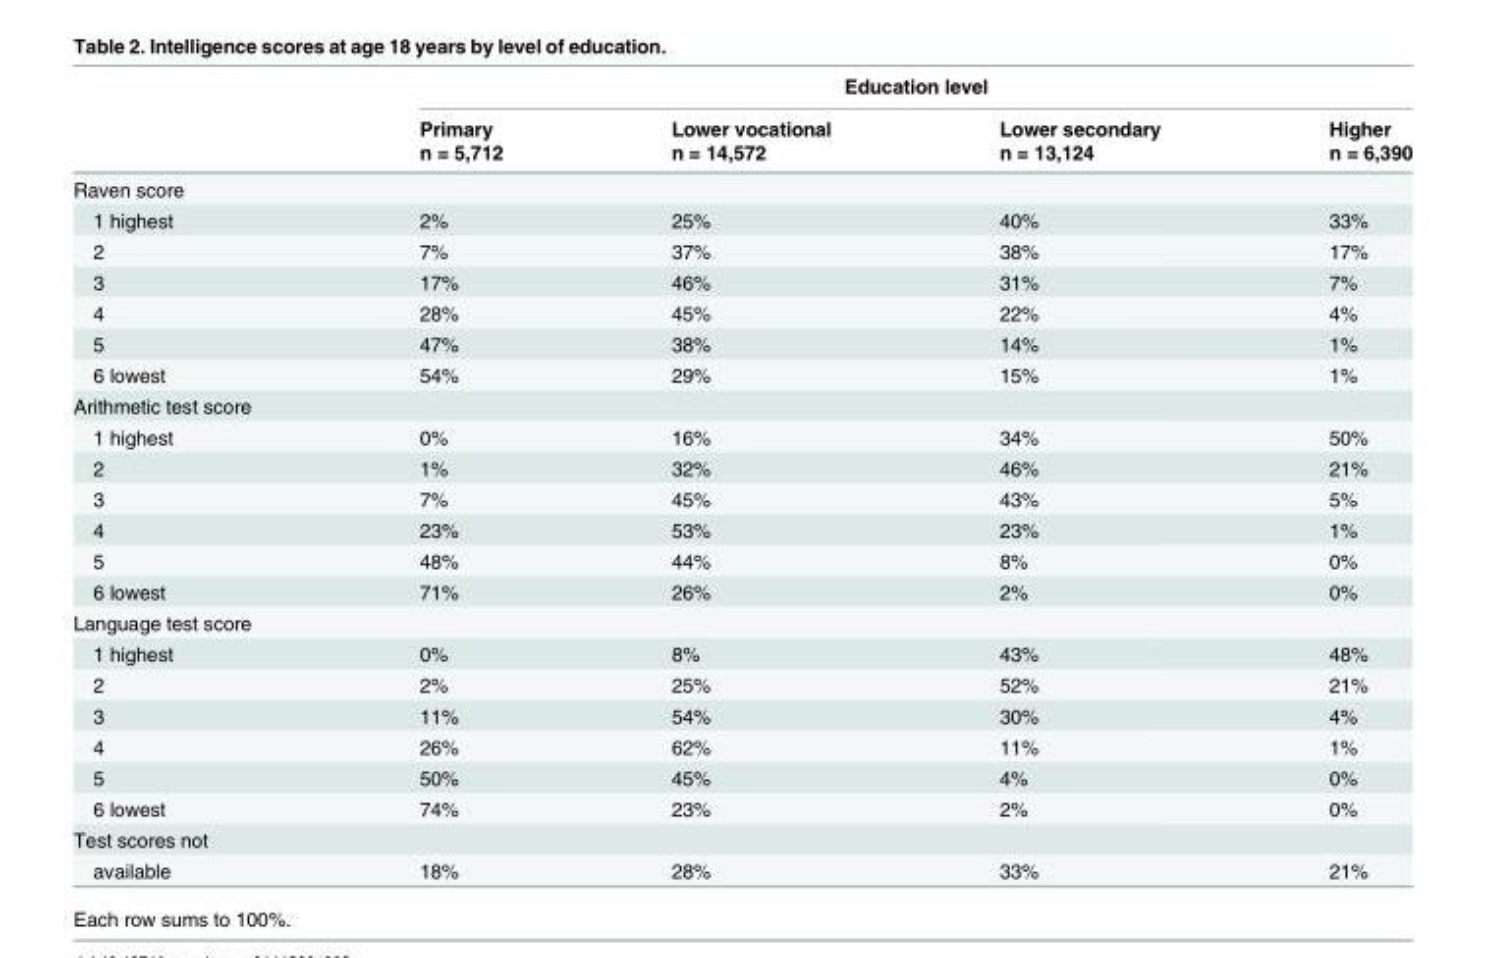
<table><thead><tr><td rowspan="3"></td><td colspan="4">Education level</td></tr><tr><td rowspan="2">Primary n = 5,712</td><td rowspan="2">Lower vocational n = 14,572</td><td rowspan="2">Lower secondary n = 13,124</td><td rowspan="2">Higher n = 6,390</td></tr><tr></tr></thead><tbody><tr><td colspan="5">Raven score</td></tr><tr><td>1 highest</td><td>2%</td><td>25%</td><td>40%</td><td>33%</td></tr><tr><td>2</td><td>7%</td><td>37%</td><td>38%</td><td>17%</td></tr><tr><td>3</td><td>17%</td><td>46%</td><td>31%</td><td>7%</td></tr><tr><td>4</td><td>28%</td><td>45%</td><td>22%</td><td>4%</td></tr><tr><td>5</td><td>47%</td><td>38%</td><td>14%</td><td>1%</td></tr><tr><td>6 lowest</td><td>54%</td><td>29%</td><td>15%</td><td>1%</td></tr><tr><td colspan="5">Arithmetic test score</td></tr><tr><td>1 highest</td><td>0%</td><td>16%</td><td>34%</td><td>50%</td></tr><tr><td>2</td><td>1%</td><td>32%</td><td>46%</td><td>21%</td></tr><tr><td>3</td><td>7%</td><td>45%</td><td>43%</td><td>5%</td></tr><tr><td>4</td><td>23%</td><td>53%</td><td>23%</td><td>1%</td></tr><tr><td>5</td><td>48%</td><td>44%</td><td>8%</td><td>0%</td></tr><tr><td>6 lowest</td><td>71%</td><td>26%</td><td>2%</td><td>0%</td></tr><tr><td colspan="5">Language test score</td></tr><tr><td>1 highest</td><td>0%</td><td>8%</td><td>43%</td><td>48%</td></tr><tr><td>2</td><td>2%</td><td>25%</td><td>52%</td><td>21%</td></tr><tr><td>3</td><td>11%</td><td>54%</td><td>30%</td><td>4%</td></tr><tr><td>4</td><td>26%</td><td>62%</td><td>11%</td><td>1%</td></tr><tr><td>5</td><td>50%</td><td>45%</td><td>4%</td><td>0%</td></tr><tr><td>6 lowest</td><td>74%</td><td>23%</td><td>2%</td><td>0%</td></tr><tr><td colspan="5">Test scores not</td></tr><tr><td>available</td><td>18%</td><td>28%</td><td>33%</td><td>21%</td></tr></tbody></table>